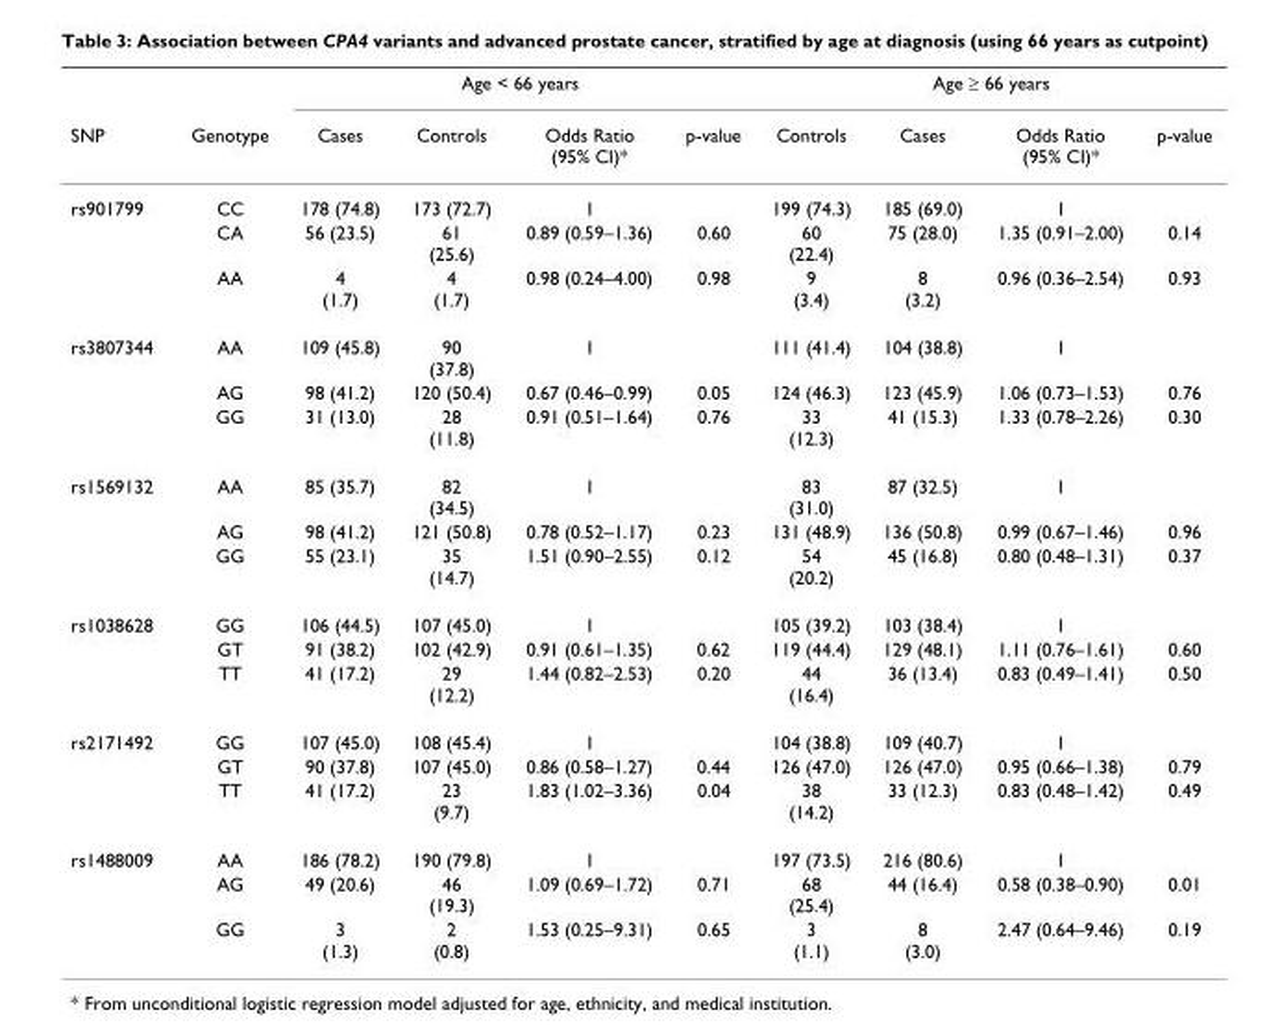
<table><thead><tr><td rowspan="2">SNP</td><td rowspan="2">Genotype</td><td colspan="4">Age &lt; 66 years</td><td colspan="4">Age ≥ 66 years</td></tr><tr><td>Cases</td><td>Controls</td><td>Odds Ratio (95% CI)*</td><td>p-value</td><td>Controls</td><td>Cases</td><td>Odds Ratio (95% CI)*</td><td>p-value</td></tr></thead><tbody><tr><td rowspan="3">rs901799</td><td>CC</td><td>178 (74.8)</td><td>173 (72.7)</td><td>1</td><td></td><td>199 (74.3)</td><td>185 (69.0)</td><td>1</td><td></td></tr><tr><td>CA</td><td>56 (23.5)</td><td>61 (25.6)</td><td>0.89 (0.59–1.36)</td><td>0.60</td><td>60 (22.4)</td><td>75 (28.0)</td><td>1.35 (0.91–2.00)</td><td>0.14</td></tr><tr><td>AA</td><td>4 (1.7)</td><td>4 (1.7)</td><td>0.98 (0.24–4.00)</td><td>0.98</td><td>9 (3.4)</td><td>8 (3.2)</td><td>0.96 (0.36–2.54)</td><td>0.93</td></tr><tr><td rowspan="3">rs3807344</td><td>AA</td><td>109 (45.8)</td><td>90 (37.8)</td><td>1</td><td></td><td>111 (41.4)</td><td>104 (38.8)</td><td>1</td><td></td></tr><tr><td>AG</td><td>98 (41.2)</td><td>120 (50.4)</td><td>0.67 (0.46–0.99)</td><td>0.05</td><td>124 (46.3)</td><td>123 (45.9)</td><td>1.06 (0.73–1.53)</td><td>0.76</td></tr><tr><td>GG</td><td>31 (13.0)</td><td>28 (11.8)</td><td>0.91 (0.51–1.64)</td><td>0.76</td><td>33 (12.3)</td><td>41 (15.3)</td><td>1.33 (0.78–2.26)</td><td>0.30</td></tr><tr><td rowspan="3">rs1569132</td><td>AA</td><td>85 (35.7)</td><td>82 (34.5)</td><td>1</td><td></td><td>83 (31.0)</td><td>87 (32.5)</td><td>1</td><td></td></tr><tr><td>AG</td><td>98 (41.2)</td><td>121 (50.8)</td><td>0.78 (0.52–1.17)</td><td>0.23</td><td>131 (48.9)</td><td>136 (50.8)</td><td>0.99 (0.67–1.46)</td><td>0.96</td></tr><tr><td>GG</td><td>55 (23.1)</td><td>35 (14.7)</td><td>1.51 (0.90–2.55)</td><td>0.12</td><td>54 (20.2)</td><td>45 (16.8)</td><td>0.80 (0.48–1.31)</td><td>0.37</td></tr><tr><td rowspan="3">rs1038628</td><td>GG</td><td>106 (44.5)</td><td>107 (45.0)</td><td>1</td><td></td><td>105 (39.2)</td><td>103 (38.4)</td><td>1</td><td></td></tr><tr><td>GT</td><td>91 (38.2)</td><td>102 (42.9)</td><td>0.91 (0.61–1.35)</td><td>0.62</td><td>119 (44.4)</td><td>129 (48.1)</td><td>1.11 (0.76–1.61)</td><td>0.60</td></tr><tr><td>TT</td><td>41 (17.2)</td><td>29 (12.2)</td><td>1.44 (0.82–2.53)</td><td>0.20</td><td>44 (16.4)</td><td>36 (13.4)</td><td>0.83 (0.49–1.41)</td><td>0.50</td></tr><tr><td rowspan="3">rs2171492</td><td>GG</td><td>107 (45.0)</td><td>108 (45.4)</td><td>1</td><td></td><td>104 (38.8)</td><td>109 (40.7)</td><td>1</td><td></td></tr><tr><td>GT</td><td>90 (37.8)</td><td>107 (45.0)</td><td>0.86 (0.58–1.27)</td><td>0.44</td><td>126 (47.0)</td><td>126 (47.0)</td><td>0.95 (0.66–1.38)</td><td>0.79</td></tr><tr><td>TT</td><td>41 (17.2)</td><td>23 (9.7)</td><td>1.83 (1.02–3.36)</td><td>0.04</td><td>38 (14.2)</td><td>33 (12.3)</td><td>0.83 (0.48–1.42)</td><td>0.49</td></tr><tr><td rowspan="3">rs1488009</td><td>AA</td><td>186 (78.2)</td><td>190 (79.8)</td><td>1</td><td></td><td>197 (73.5)</td><td>216 (80.6)</td><td>1</td><td></td></tr><tr><td>AG</td><td>49 (20.6)</td><td>46 (19.3)</td><td>1.09 (0.69–1.72)</td><td>0.71</td><td>68 (25.4)</td><td>44 (16.4)</td><td>0.58 (0.38–0.90)</td><td>0.01</td></tr><tr><td>GG</td><td>3 (1.3)</td><td>2 (0.8)</td><td>1.53 (0.25–9.31)</td><td>0.65</td><td>3 (1.1)</td><td>8 (3.0)</td><td>2.47 (0.64–9.46)</td><td>0.19</td></tr></tbody></table>